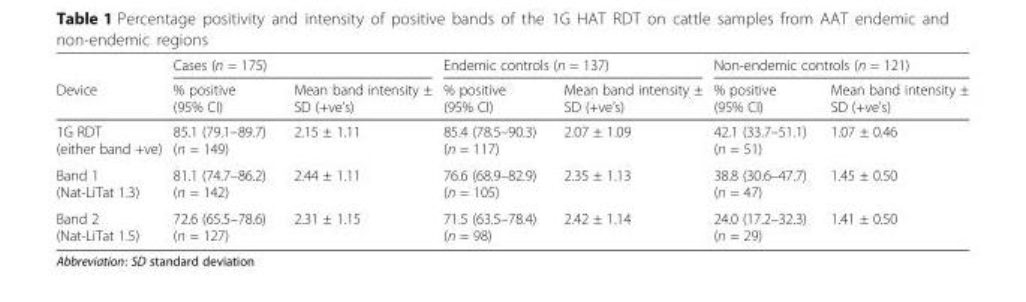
<table><thead><tr><td rowspan="2">Device</td><td colspan="2">Cases (n = 175)</td><td colspan="2">Endemic controls (n = 137)</td><td colspan="2">Non-endemic controls (n = 121)</td></tr><tr><td>% positive (95% CI)</td><td>Mean band intensity ± SD (+ve’s)</td><td>% positive (95% CI)</td><td>Mean band intensity ± SD (+ve’s)</td><td>% positive (95% CI)</td><td>Mean band intensity ± SD (+ve’s)</td></tr></thead><tbody><tr><td>1G RDT (either band +ve)</td><td>85.1 (79.1–89.7) (n = 149)</td><td>2.15 ± 1.11</td><td>85.4 (78.5–90.3) (n = 117)</td><td>2.07 ± 1.09</td><td>42.1 (33.7–51.1) (n = 51)</td><td>1.07 ± 0.46</td></tr><tr><td>Band 1 (Nat-LiTat 1.3)</td><td>81.1 (74.7–86.2) (n = 142)</td><td>2.44 ± 1.11</td><td>76.6 (68.9–82.9) (n = 105)</td><td>2.35 ± 1.13</td><td>38.8 (30.6–47.7) (n = 47)</td><td>1.45 ± 0.50</td></tr><tr><td>Band 2 (Nat-LiTat 1.5)</td><td>72.6 (65.5–78.6) (n = 127)</td><td>2.31 ± 1.15</td><td>71.5 (63.5–78.4) (n = 98)</td><td>2.42 ± 1.14</td><td>24.0 (17.2–32.3) (n = 29)</td><td>1.41 ± 0.50</td></tr></tbody></table>